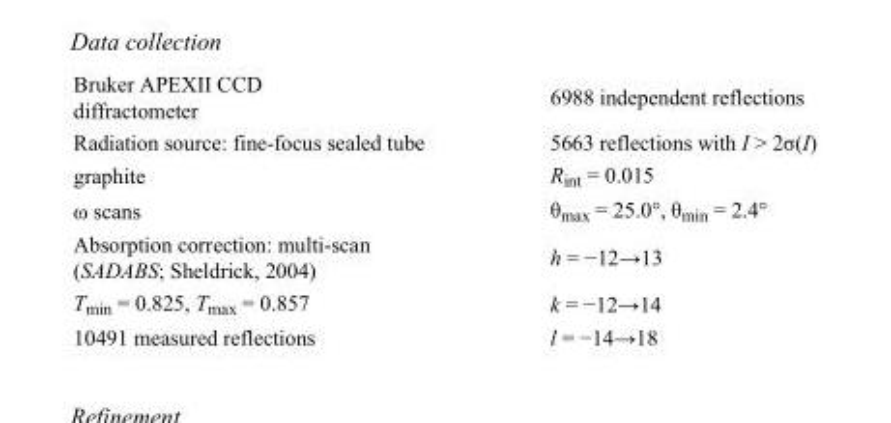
<table><tbody><tr><td>Bruker APEXII CCD diffractometer</td><td>6988 independent reflections</td></tr><tr><td>Radiation source: fine-focus sealed tube</td><td>5663 reflections with I &gt; 2σ(I)</td></tr><tr><td>graphite</td><td>R<sub>int</sub> = 0.015</td></tr><tr><td>ω scans</td><td>θ<sub>max</sub> = 25.0°, θ<sub>min</sub> = 2.4°</td></tr><tr><td>Absorption correction: multi-scan (SADABS; Sheldrick, 2004)</td><td>h = −12→13</td></tr><tr><td>T<sub>min</sub> = 0.825, T<sub>max</sub> = 0.857</td><td>k = −12→14</td></tr><tr><td>10491 measured reflections</td><td>l = −14→18</td></tr></tbody></table>